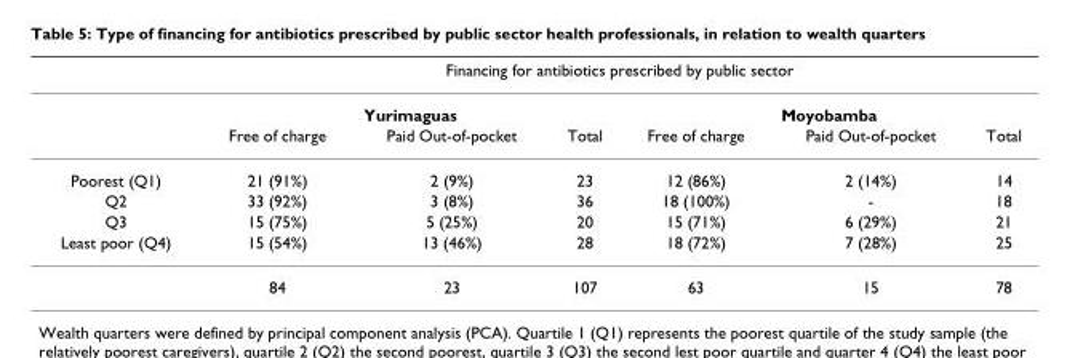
<table><thead><tr><td rowspan="3"></td><td colspan="6">Financing for antibiotics prescribed by public sector</td></tr><tr><td colspan="3">Yurimaguas</td><td colspan="3">Moyobamba</td></tr><tr><td>Free of charge</td><td>Paid Out-of-pocket</td><td>Total</td><td>Free of charge</td><td>Paid Out-of-pocket</td><td>Total</td></tr></thead><tbody><tr><td>Poorest (Q1)</td><td>21 (91%)</td><td>2 (9%)</td><td>23</td><td>12 (86%)</td><td>2 (14%)</td><td>14</td></tr><tr><td>Q2</td><td>33 (92%)</td><td>3 (8%)</td><td>36</td><td>18 (100%)</td><td>-</td><td>18</td></tr><tr><td>Q3</td><td>15 (75%)</td><td>5 (25%)</td><td>20</td><td>15 (71%)</td><td>6 (29%)</td><td>21</td></tr><tr><td rowspan="2">Least poor (Q4)</td><td>15 (54%)</td><td>13 (46%)</td><td>28</td><td>18 (72%)</td><td>7 (28%)</td><td>25</td></tr><tr><td>84</td><td>23</td><td>107</td><td>63</td><td>15</td><td>78</td></tr></tbody></table>